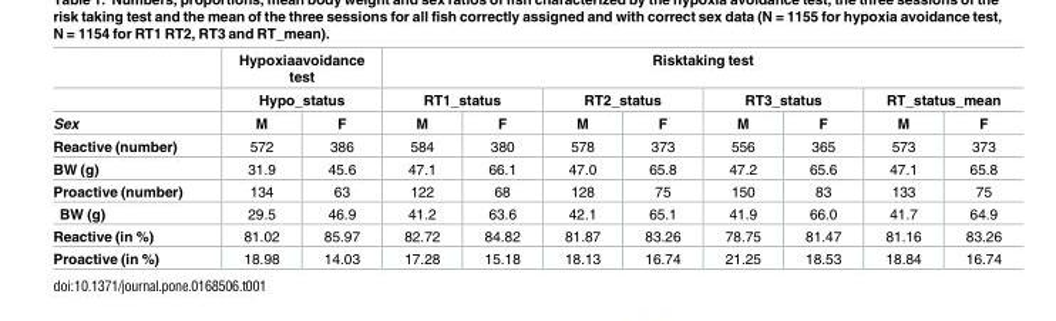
<table><thead><tr><td rowspan="3">Sex</td><td rowspan="2" colspan="2">Hypoxiaavoidance test Hypo_status</td><td colspan="8">Risktaking test</td></tr><tr><td colspan="2">RT1_status</td><td colspan="2">RT2_status</td><td colspan="2">RT3_status</td><td colspan="2">RT_status_mean</td></tr><tr><td>M</td><td>F</td><td>M</td><td>F</td><td>M</td><td>F</td><td>M</td><td>F</td><td>M</td><td>F</td></tr></thead><tbody><tr><td>Reactive (number)</td><td>572</td><td>386</td><td>584</td><td>380</td><td>578</td><td>373</td><td>556</td><td>365</td><td>573</td><td>373</td></tr><tr><td>BW (g)</td><td>31.9</td><td>45.6</td><td>47.1</td><td>66.1</td><td>47.0</td><td>65.8</td><td>47.2</td><td>65.6</td><td>47.1</td><td>65.8</td></tr><tr><td>Proactive (number)</td><td>134</td><td>63</td><td>122</td><td>68</td><td>128</td><td>75</td><td>150</td><td>83</td><td>133</td><td>75</td></tr><tr><td>BW (g)</td><td>29.5</td><td>46.9</td><td>41.2</td><td>63.6</td><td>42.1</td><td>65.1</td><td>41.9</td><td>66.0</td><td>41.7</td><td>64.9</td></tr><tr><td>Reactive (in %)</td><td>81.02</td><td>85.97</td><td>82.72</td><td>84.82</td><td>81.87</td><td>83.26</td><td>78.75</td><td>81.47</td><td>81.16</td><td>83.26</td></tr><tr><td>Proactive (in %)</td><td>18.98</td><td>14.03</td><td>17.28</td><td>15.18</td><td>18.13</td><td>16.74</td><td>21.25</td><td>18.53</td><td>18.84</td><td>16.74</td></tr></tbody></table>